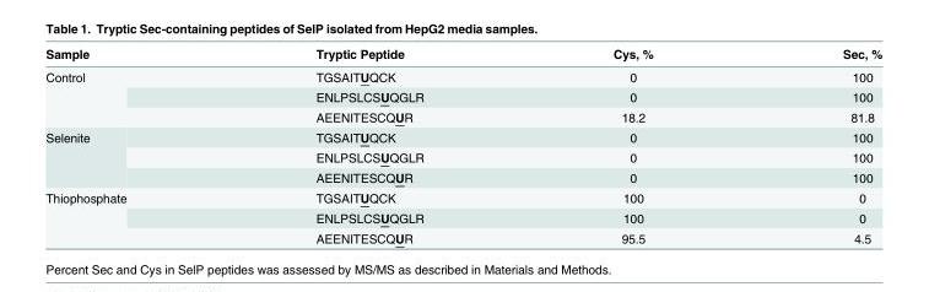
<table><thead><tr><td>Sample</td><td>Tryptic Peptide</td><td>Cys, %</td><td>Sec, %</td></tr></thead><tbody><tr><td rowspan="3">Control</td><td>TGSAITUQCK</td><td>0</td><td>100</td></tr><tr><td>ENLPSLCSUQGLR</td><td>0</td><td>100</td></tr><tr><td>AEENITESCQUR</td><td>18.2</td><td>81.8</td></tr><tr><td rowspan="3">Selenite</td><td>TGSAITUQCK</td><td>0</td><td>100</td></tr><tr><td>ENLPSLCSUQGLR</td><td>0</td><td>100</td></tr><tr><td>AEENITESCQUR</td><td>0</td><td>100</td></tr><tr><td rowspan="3">Thiophosphate</td><td>TGSAITUQCK</td><td>100</td><td>0</td></tr><tr><td>ENLPSLCSUQGLR</td><td>100</td><td>0</td></tr><tr><td>AEENITESCQUR</td><td>95.5</td><td>4.5</td></tr></tbody></table>